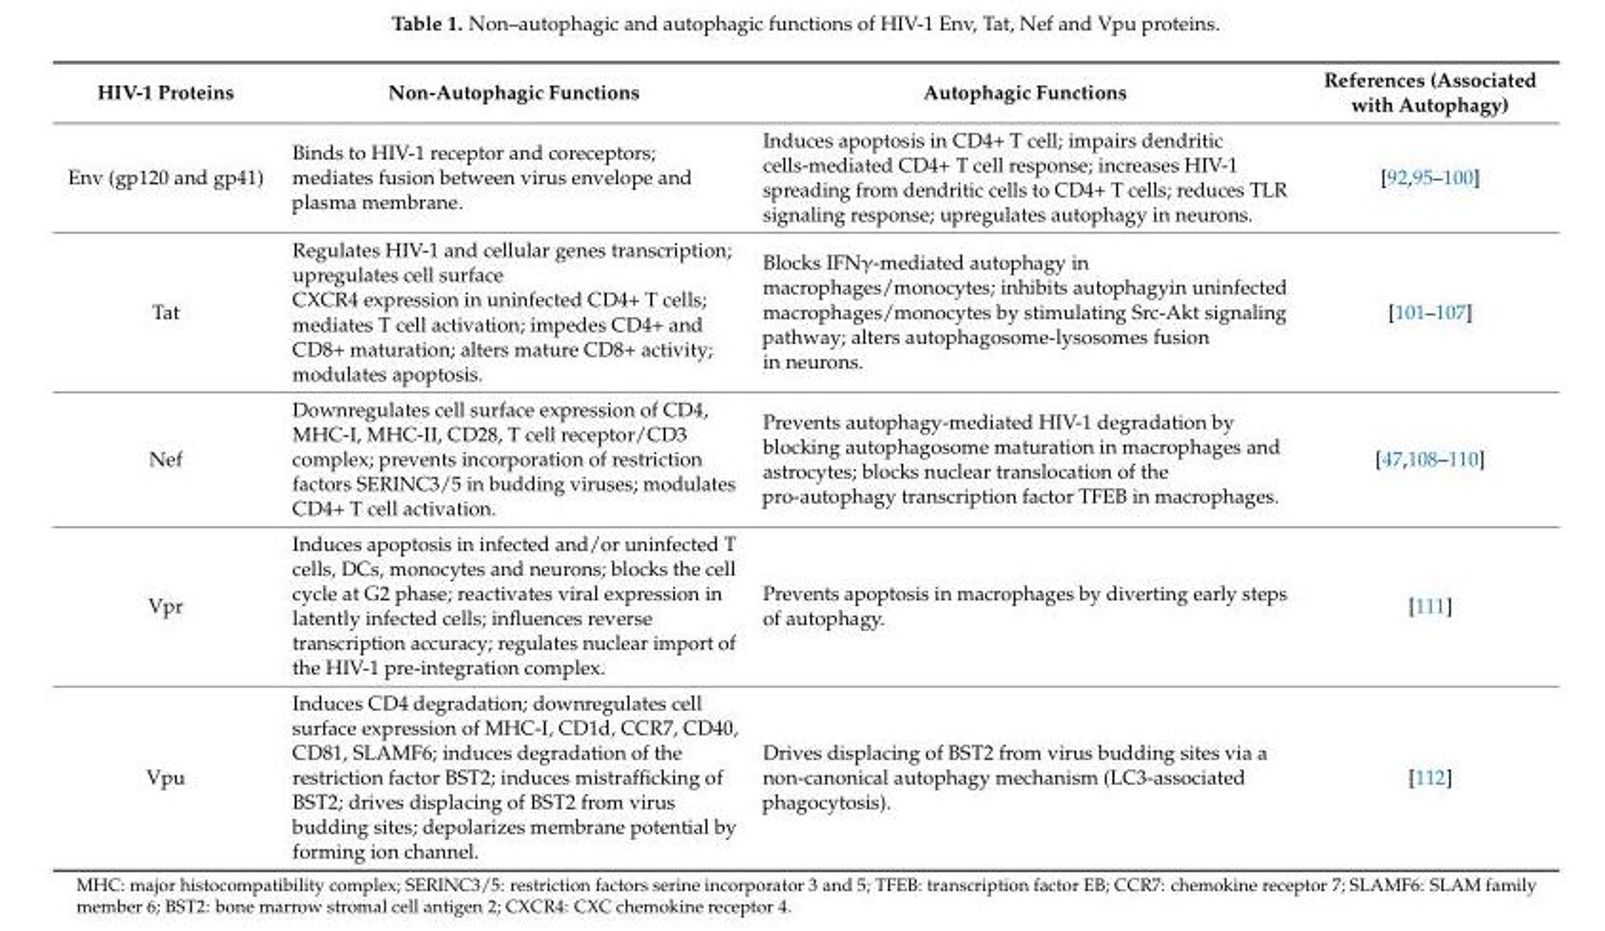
<table><thead><tr><td>HIV-1 Proteins</td><td>Non-Autophagic Functions</td><td>Autophagic Functions</td><td>References (Associated with Autophagy)</td></tr></thead><tbody><tr><td>Env (gp120 and gp41)</td><td>Binds to HIV-1 receptor and coreceptors; mediates fusion between virus envelope and plasma membrane.</td><td>Induces apoptosis in CD4+ T cell; impairs dendritic cells-mediated CD4+ T cell response; increases HIV-1 spreading from dendritic cells to CD4+ T cells; reduces TLR signaling response; upregulates autophagy in neurons.</td><td>[92,95–100]</td></tr><tr><td>Tat</td><td>Regulates HIV-1 and cellular genes transcription; upregulates cell surface CXCR4 expression in uninfected CD4+ T cells; mediates T cell activation; impedes CD4+ and CD8+ maturation; alters mature CD8+ activity; modulates apoptosis.</td><td>Blocks IFNγ-mediated autophagy in macrophages/monocytes; inhibits autophagyin uninfected macrophages/monocytes by stimulating Src-Akt signaling pathway; alters autophagosome-lysosomes fusion in neurons.</td><td>[101–107]</td></tr><tr><td>Nef</td><td>Downregulates cell surface expression of CD4, MHC-I, MHC-II, CD28, T cell receptor/CD3 complex; prevents incorporation of restriction factors SERINC3/5 in budding viruses; modulates CD4+ T cell activation.</td><td>Prevents autophagy-mediated HIV-1 degradation by blocking autophagosome maturation in macrophages and astrocytes; blocks nuclear translocation of the pro-autophagy transcription factor TFEB in macrophages.</td><td>[47,108–110]</td></tr><tr><td>Vpr</td><td>Induces apoptosis in infected and/or uninfected T cells, DCs, monocytes and neurons; blocks the cell cycle at G2 phase; reactivates viral expression in latently infected cells; influences reverse transcription accuracy; regulates nuclear import of the HIV-1 pre-integration complex.</td><td>Prevents apoptosis in macrophages by diverting early steps of autophagy.</td><td>[111]</td></tr><tr><td>Vpu</td><td>Induces CD4 degradation; downregulates cell surface expression of MHC-I, CD1d, CCR7, CD40, CD81, SLAMF6; induces degradation of the restriction factor BST2; induces mistrafficking of BST2; drives displacing of BST2 from virus budding sites; depolarizes membrane potential by forming ion channel.</td><td>Drives displacing of BST2 from virus budding sites via a non-canonical autophagy mechanism (LC3-associated phagocytosis).</td><td>[112]</td></tr></tbody></table>